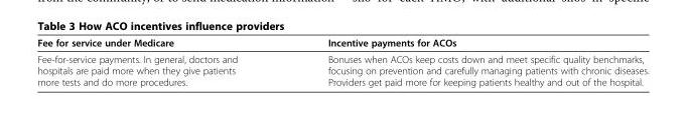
<table><thead><tr><td>Fee for service under Medicare</td><td>Incentive payments for ACOs</td></tr></thead><tbody><tr><td>Fee-for-service payments. In general, doctors and hospitals are paid more when they give patients more tests and do more procedures.</td><td>Bonuses when ACOs keep costs down and meet specific quality benchmarks, focusing on prevention and carefully managing patients with chronic diseases. Providers get paid more for keeping patients healthy and out of the hospital.</td></tr></tbody></table>